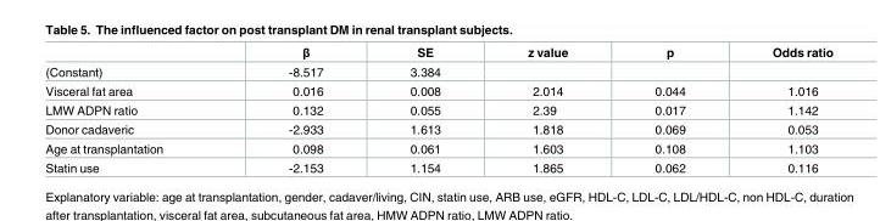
<table><thead><tr><td></td><td>β</td><td>SE</td><td>z value</td><td>p</td><td>Odds ratio</td></tr></thead><tbody><tr><td>(Constant)</td><td>-8.517</td><td>3.384</td><td></td><td></td><td></td></tr><tr><td>Visceral fat area</td><td>0.016</td><td>0.008</td><td>2.014</td><td>0.044</td><td>1.016</td></tr><tr><td>LMW ADPN ratio</td><td>0.132</td><td>0.055</td><td>2.39</td><td>0.017</td><td>1.142</td></tr><tr><td>Donor cadaveric</td><td>-2.933</td><td>1.613</td><td>1.818</td><td>0.069</td><td>0.053</td></tr><tr><td>Age at transplantation</td><td>0.098</td><td>0.061</td><td>1.603</td><td>0.108</td><td>1.103</td></tr><tr><td>Statin use</td><td>-2.153</td><td>1.154</td><td>1.865</td><td>0.062</td><td>0.116</td></tr></tbody></table>